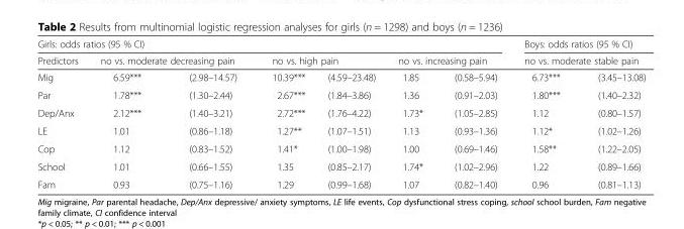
<table><thead><tr><td colspan="7">Girls: odds ratios (95 % CI)</td><td rowspan="2" colspan="2">Boys: odds ratios (95 % CI) no vs. moderate stable pain</td></tr><tr><td rowspan="2">Predictors Mig</td><td colspan="2">no vs. moderate decreasing pain</td><td colspan="2">no vs. high pain</td><td colspan="2">no vs. increasing pain</td></tr><tr><td>6.59***</td><td>(2.98–14.57)</td><td>10.39***</td><td>(4.59–23.48)</td><td>1.85</td><td>(0.58–5.94)</td><td>6.73***</td><td>(3.45–13.08)</td></tr></thead><tbody><tr><td>Par</td><td>1.78***</td><td>(1.30–2.44)</td><td>2.67***</td><td>(1.84–3.86)</td><td>1.36</td><td>(0.91–2.03)</td><td>1.80***</td><td>(1.40–2.32)</td></tr><tr><td>Dep/Anx</td><td>2.12***</td><td>(1.40–3.21)</td><td>2.72***</td><td>(1.76–4.22)</td><td>1.73*</td><td>(1.05–2.85)</td><td>1.12</td><td>(0.80–1.57)</td></tr><tr><td>LE</td><td>1.01</td><td>(0.86–1.18)</td><td>1.27**</td><td>(1.07–1.51)</td><td>1.13</td><td>(0.93–1.36)</td><td>1.12*</td><td>(1.02–1.26)</td></tr><tr><td>Cop</td><td>1.12</td><td>(0.83–1.52)</td><td>1.41*</td><td>(1.00–1.98)</td><td>1.00</td><td>(0.69–1.46)</td><td>1.58**</td><td>(1.22–2.05)</td></tr><tr><td>School</td><td>1.01</td><td>(0.66–1.55)</td><td>1.35</td><td>(0.85–2.17)</td><td>1.74*</td><td>(1.02–2.96)</td><td>1.22</td><td>(0.89–1.66)</td></tr><tr><td>Fam</td><td>0.93</td><td>(0.75–1.16)</td><td>1.29</td><td>(0.99–1.68)</td><td>1.07</td><td>(0.82–1.40)</td><td>0.96</td><td>(0.81–1.13)</td></tr></tbody></table>